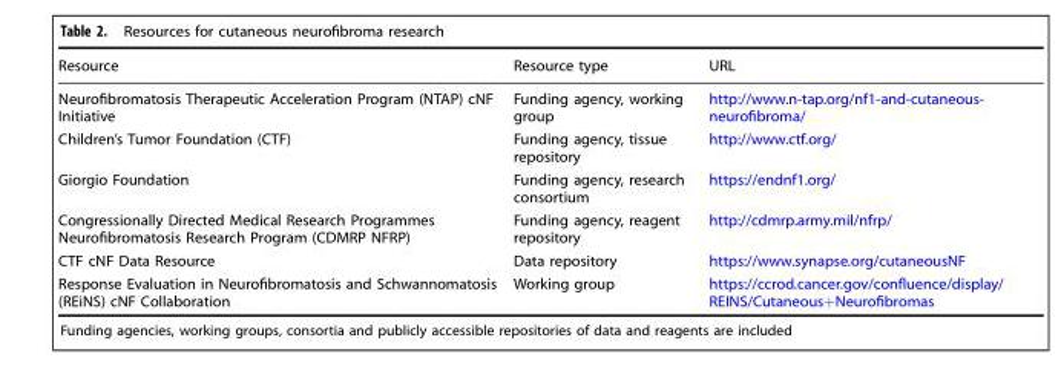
<table><thead><tr><td>Resource</td><td>Resource type</td><td>URL</td></tr></thead><tbody><tr><td>Neurofibromatosis Therapeutic Acceleration Program (NTAP) cNF Initiative</td><td>Funding agency, working group</td><td>http://www.n-tap.org/nf1-and-cutaneous- neurofibroma/</td></tr><tr><td>Children’s Tumor Foundation (CTF)</td><td>Funding agency, tissue repository</td><td>http://www.ctf.org/</td></tr><tr><td>Giorgio Foundation</td><td>Funding agency, research consortium</td><td>https://endnf1.org/</td></tr><tr><td>Congressionally Directed Medical Research Programmes Neurofibromatosis Research Program (CDMRP NFRP)</td><td>Funding agency, reagent repository</td><td>http://cdmrp.army.mil/nfrp/</td></tr><tr><td>CTF cNF Data Resource</td><td>Data repository</td><td>https://www.synapse.org/cutaneousNF</td></tr><tr><td>Response Evaluation in Neurofibromatosis and Schwannomatosis (REiNS) cNF Collaboration</td><td>Working group</td><td>https://ccrod.cancer.gov/confluence/display/ REINS/Cutaneous+Neurofibromas</td></tr></tbody></table>